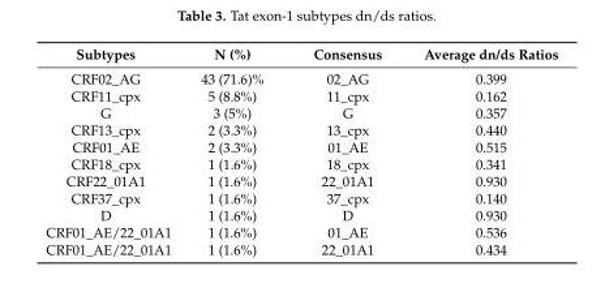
<table><thead><tr><td>Subtypes</td><td>N (%)</td><td>Consensus</td><td>Average dn/ds Ratios</td></tr></thead><tbody><tr><td>CRF02_AG</td><td>43 (71.6)%</td><td>02_AG</td><td>0.399</td></tr><tr><td>CRF11_cpx</td><td>5 (8.8%)</td><td>11_cpx</td><td>0.162</td></tr><tr><td>G</td><td>3 (5%)</td><td>G</td><td>0.357</td></tr><tr><td>CRF13_cpx</td><td>2 (3.3%)</td><td>13_cpx</td><td>0.440</td></tr><tr><td>CRF01_AE</td><td>2 (3.3%)</td><td>01_AE</td><td>0.515</td></tr><tr><td>CRF18_cpx</td><td>1 (1.6%)</td><td>18_cpx</td><td>0.341</td></tr><tr><td>CRF22_01A1</td><td>1 (1.6%)</td><td>22_01A1</td><td>0.930</td></tr><tr><td>CRF37_cpx</td><td>1 (1.6%)</td><td>37_cpx</td><td>0.140</td></tr><tr><td>D</td><td>1 (1.6%)</td><td>D</td><td>0.930</td></tr><tr><td>CRF01_AE/22_01A1</td><td>1 (1.6%)</td><td>01_AE</td><td>0.536</td></tr><tr><td>CRF01_AE/22_01A1</td><td>1 (1.6%)</td><td>22_01A1</td><td>0.434</td></tr></tbody></table>